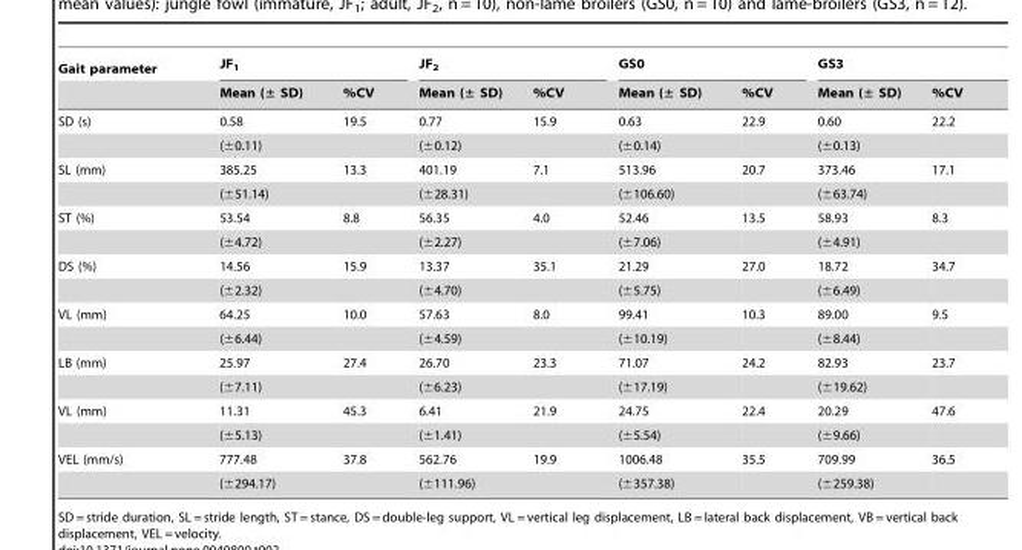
<table><thead><tr><td rowspan="2">Gait parameter</td><td colspan="2">JF<sub>1</sub></td><td colspan="2">JF<sub>2</sub></td><td colspan="2">GS0</td><td colspan="2">GS3</td></tr><tr><td>Mean (± SD)</td><td>%CV</td><td>Mean (± SD)</td><td>%CV</td><td>Mean (± SD)</td><td>%CV</td><td>Mean (± SD)</td><td>%CV</td></tr></thead><tbody><tr><td rowspan="2">SD (s)</td><td>0.58</td><td>19.5</td><td>0.77</td><td>15.9</td><td>0.63</td><td>22.9</td><td>0.60</td><td>22.2</td></tr><tr><td>(±0.11)</td><td></td><td>(±0.12)</td><td></td><td>(±0.14)</td><td></td><td>(±0.13)</td><td></td></tr><tr><td rowspan="2">SL (mm)</td><td>385.25</td><td>13.3</td><td>401.19</td><td>7.1</td><td>513.96</td><td>20.7</td><td>373.46</td><td>17.1</td></tr><tr><td>(±51.14)</td><td></td><td>(±28.31)</td><td></td><td>(±106.60)</td><td></td><td>(±63.74)</td><td></td></tr><tr><td rowspan="2">ST (%)</td><td>53.54</td><td>8.8</td><td>56.35</td><td>4.0</td><td>52.46</td><td>13.5</td><td>58.93</td><td>8.3</td></tr><tr><td>(±4.72)</td><td></td><td>(±2.27)</td><td></td><td>(±7.06)</td><td></td><td>(±4.91)</td><td></td></tr><tr><td rowspan="2">DS (%)</td><td>14.56</td><td>15.9</td><td>13.37</td><td>35.1</td><td>21.29</td><td>27.0</td><td>18.72</td><td>34.7</td></tr><tr><td>(±2.32)</td><td></td><td>(±4.70)</td><td></td><td>(±5.75)</td><td></td><td>(±6.49)</td><td></td></tr><tr><td rowspan="2">VL (mm)</td><td>64.25</td><td>10.0</td><td>57.63</td><td>8.0</td><td>99.41</td><td>10.3</td><td>89.00</td><td>9.5</td></tr><tr><td>(±6.44)</td><td></td><td>(±4.59)</td><td></td><td>(±10.19)</td><td></td><td>(±8.44)</td><td></td></tr><tr><td rowspan="2">LB (mm)</td><td>25.97</td><td>27.4</td><td>26.70</td><td>23.3</td><td>71.07</td><td>24.2</td><td>82.93</td><td>23.7</td></tr><tr><td>(±7.11)</td><td></td><td>(±6.23)</td><td></td><td>(±17.19)</td><td></td><td>(±19.62)</td><td></td></tr><tr><td rowspan="2">VL (mm)</td><td>11.31</td><td>45.3</td><td>6.41</td><td>21.9</td><td>24.75</td><td>22.4</td><td>20.29</td><td>47.6</td></tr><tr><td>(±5.13)</td><td></td><td>(±1.41)</td><td></td><td>(±5.54)</td><td></td><td>(±9.66)</td><td></td></tr><tr><td rowspan="2">VEL (mm/s)</td><td>777.48</td><td>37.8</td><td>562.76</td><td>19.9</td><td>1006.48</td><td>35.5</td><td>709.99</td><td>36.5</td></tr><tr><td>(±294.17)</td><td></td><td>(±111.96)</td><td></td><td>(±357.38)</td><td></td><td>(±259.38)</td><td></td></tr></tbody></table>